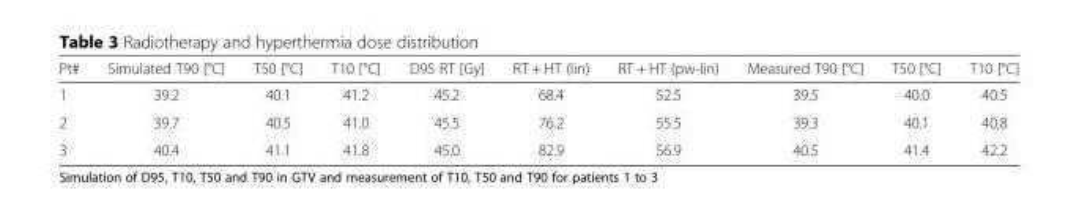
<table><thead><tr><td>Pt#</td><td>Simulated T90 [°C]</td><td>T50 [°C]</td><td>T10 [°C]</td><td>D95 RT [Gy]</td><td>RT + HT (lin)</td><td>RT + HT (pw-lin)</td><td>Measured T90 [°C]</td><td>T50 [°C]</td><td>T10 [°C]</td></tr></thead><tbody><tr><td>1</td><td>39.2</td><td>40.1</td><td>41.2</td><td>45.2</td><td>68.4</td><td>52.5</td><td>39.5</td><td>40.0</td><td>40.5</td></tr><tr><td>2</td><td>39.7</td><td>40.5</td><td>41.0</td><td>45.5</td><td>76.2</td><td>55.5</td><td>39.3</td><td>40.1</td><td>40.8</td></tr><tr><td>3</td><td>40.4</td><td>41.1</td><td>41.8</td><td>45.0</td><td>82.9</td><td>56.9</td><td>40.5</td><td>41.4</td><td>42.2</td></tr></tbody></table>